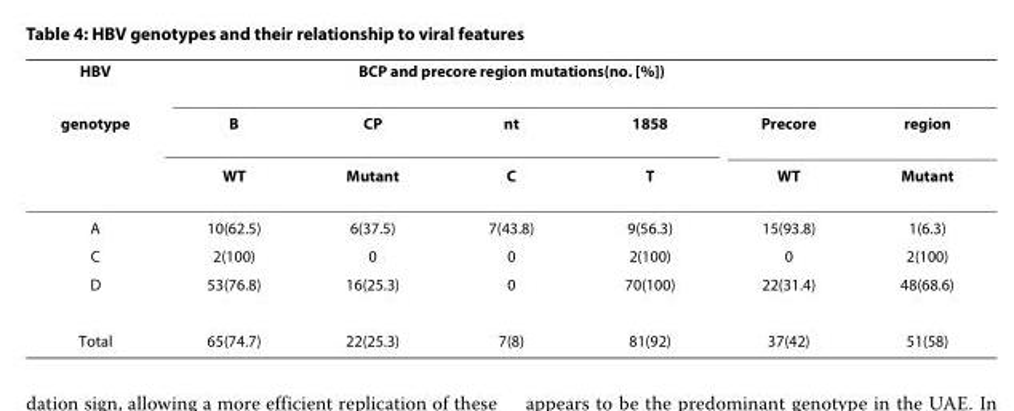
<table><thead><tr><td rowspan="3">HBV genotype</td><td rowspan="3">B WT</td><td colspan="3">BCP and precore region mutations(no. [%])</td><td rowspan="3">Precore WT</td><td rowspan="3">region Mutant</td></tr><tr><td rowspan="2">CP Mutant</td><td rowspan="2">nt C</td><td rowspan="2">1858 T</td></tr><tr></tr></thead><tbody><tr><td>A</td><td>10(62.5)</td><td>6(37.5)</td><td>7(43.8)</td><td>9(56.3)</td><td>15(93.8)</td><td>1(6.3)</td></tr><tr><td>C</td><td>2(100)</td><td>0</td><td>0</td><td>2(100)</td><td>0</td><td>2(100)</td></tr><tr><td>D</td><td>53(76.8)</td><td>16(25.3)</td><td>0</td><td>70(100)</td><td>22(31.4)</td><td>48(68.6)</td></tr><tr><td>Total</td><td>65(74.7)</td><td>22(25.3)</td><td>7(8)</td><td>81(92)</td><td>37(42)</td><td>51(58)</td></tr></tbody></table>